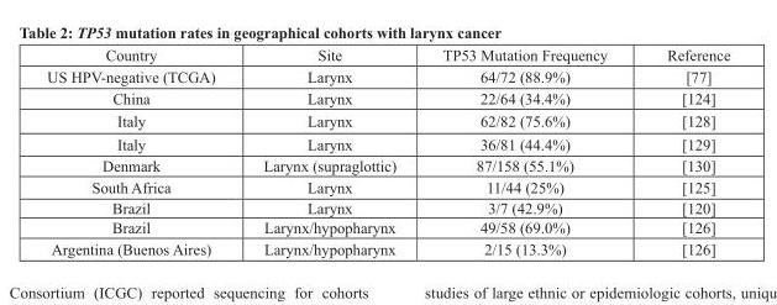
<table><thead><tr><td>Country</td><td>Site</td><td>TP53 Mutation Frequency</td><td>Reference</td></tr></thead><tbody><tr><td>US HPV-negative (TCGA)</td><td>Larynx</td><td>64/72 (88.9%)</td><td>[77]</td></tr><tr><td>China</td><td>Larynx</td><td>22/64 (34.4%)</td><td>[124]</td></tr><tr><td>Italy</td><td>Larynx</td><td>62/82 (75.6%)</td><td>[128]</td></tr><tr><td>Italy</td><td>Larynx</td><td>36/81 (44.4%)</td><td>[129]</td></tr><tr><td>Denmark</td><td>Larynx (supraglottic)</td><td>87/158 (55.1%)</td><td>[130]</td></tr><tr><td>South Africa</td><td>Larynx</td><td>11/44 (25%)</td><td>[125]</td></tr><tr><td>Brazil</td><td>Larynx</td><td>3/7 (42.9%)</td><td>[120]</td></tr><tr><td>Brazil</td><td>Larynx/hypopharynx</td><td>49/58 (69.0%)</td><td>[126]</td></tr><tr><td>Argentina (Buenos Aires)</td><td>Larynx/hypopharynx</td><td>2/15 (13.3%)</td><td>[126]</td></tr></tbody></table>